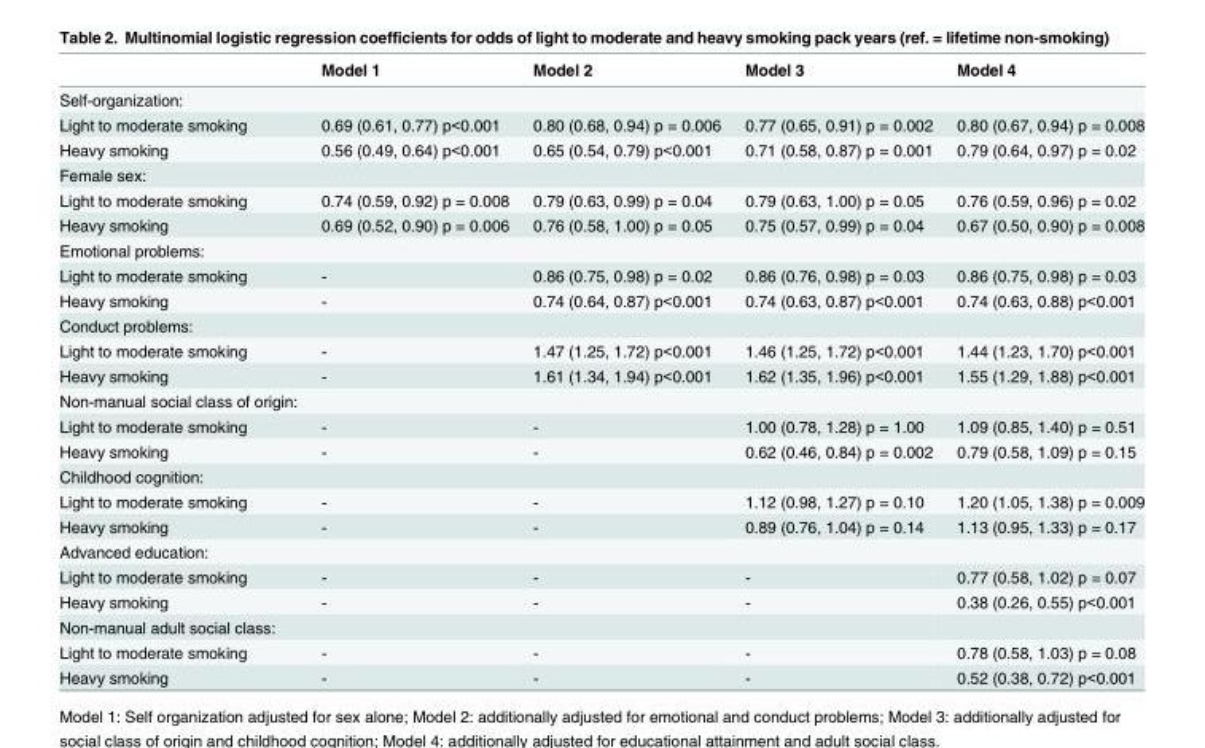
<table><thead><tr><td></td><td>Model 1</td><td>Model 2</td><td>Model 3</td><td>Model 4</td></tr></thead><tbody><tr><td colspan="5">Self-organization:</td></tr><tr><td>Light to moderate smoking</td><td>0.69 (0.61, 0.77) p&lt;0.001</td><td>0.80 (0.68, 0.94) p = 0.006</td><td>0.77 (0.65, 0.91) p = 0.002</td><td>0.80 (0.67, 0.94) p = 0.008</td></tr><tr><td>Heavy smoking</td><td>0.56 (0.49, 0.64) p&lt;0.001</td><td>0.65 (0.54, 0.79) p&lt;0.001</td><td>0.71 (0.58, 0.87) p = 0.001</td><td>0.79 (0.64, 0.97) p = 0.02</td></tr><tr><td colspan="5">Female sex:</td></tr><tr><td>Light to moderate smoking</td><td>0.74 (0.59, 0.92) p = 0.008</td><td>0.79 (0.63, 0.99) p = 0.04</td><td>0.79 (0.63, 1.00) p = 0.05</td><td>0.76 (0.59, 0.96) p = 0.02</td></tr><tr><td>Heavy smoking</td><td>0.69 (0.52, 0.90) p = 0.006</td><td>0.76 (0.58, 1.00) p = 0.05</td><td>0.75 (0.57, 0.99) p = 0.04</td><td>0.67 (0.50, 0.90) p = 0.008</td></tr><tr><td colspan="5">Emotional problems:</td></tr><tr><td>Light to moderate smoking</td><td>-</td><td>0.86 (0.75, 0.98) p = 0.02</td><td>0.86 (0.76, 0.98) p = 0.03</td><td>0.86 (0.75, 0.98) p = 0.03</td></tr><tr><td>Heavy smoking</td><td>-</td><td>0.74 (0.64, 0.87) p&lt;0.001</td><td>0.74 (0.63, 0.87) p&lt;0.001</td><td>0.74 (0.63, 0.88) p&lt;0.001</td></tr><tr><td colspan="5">Conduct problems:</td></tr><tr><td>Light to moderate smoking</td><td>-</td><td>1.47 (1.25, 1.72) p&lt;0.001</td><td>1.46 (1.25, 1.72) p&lt;0.001</td><td>1.44 (1.23, 1.70) p&lt;0.001</td></tr><tr><td>Heavy smoking</td><td>-</td><td>1.61 (1.34, 1.94) p&lt;0.001</td><td>1.62 (1.35, 1.96) p&lt;0.001</td><td>1.55 (1.29, 1.88) p&lt;0.001</td></tr><tr><td colspan="5">Non-manual social class of origin:</td></tr><tr><td>Light to moderate smoking</td><td>-</td><td>-</td><td>1.00 (0.78, 1.28) p = 1.00</td><td>1.09 (0.85, 1.40) p = 0.51</td></tr><tr><td>Heavy smoking</td><td>-</td><td>-</td><td>0.62 (0.46, 0.84) p = 0.002</td><td>0.79 (0.58, 1.09) p = 0.15</td></tr><tr><td colspan="5">Childhood cognition:</td></tr><tr><td>Light to moderate smoking</td><td>-</td><td>-</td><td>1.12 (0.98, 1.27) p = 0.10</td><td>1.20 (1.05, 1.38) p = 0.009</td></tr><tr><td>Heavy smoking</td><td>-</td><td>-</td><td>0.89 (0.76, 1.04) p = 0.14</td><td>1.13 (0.95, 1.33) p = 0.17</td></tr><tr><td colspan="5">Advanced education:</td></tr><tr><td>Light to moderate smoking</td><td>-</td><td>-</td><td>-</td><td>0.77 (0.58, 1.02) p = 0.07</td></tr><tr><td>Heavy smoking</td><td>-</td><td>-</td><td>-</td><td>0.38 (0.26, 0.55) p&lt;0.001</td></tr><tr><td colspan="5">Non-manual adult social class:</td></tr><tr><td>Light to moderate smoking</td><td>-</td><td>-</td><td>-</td><td>0.78 (0.58, 1.03) p = 0.08</td></tr><tr><td>Heavy smoking</td><td>-</td><td>-</td><td>-</td><td>0.52 (0.38, 0.72) p&lt;0.001</td></tr></tbody></table>